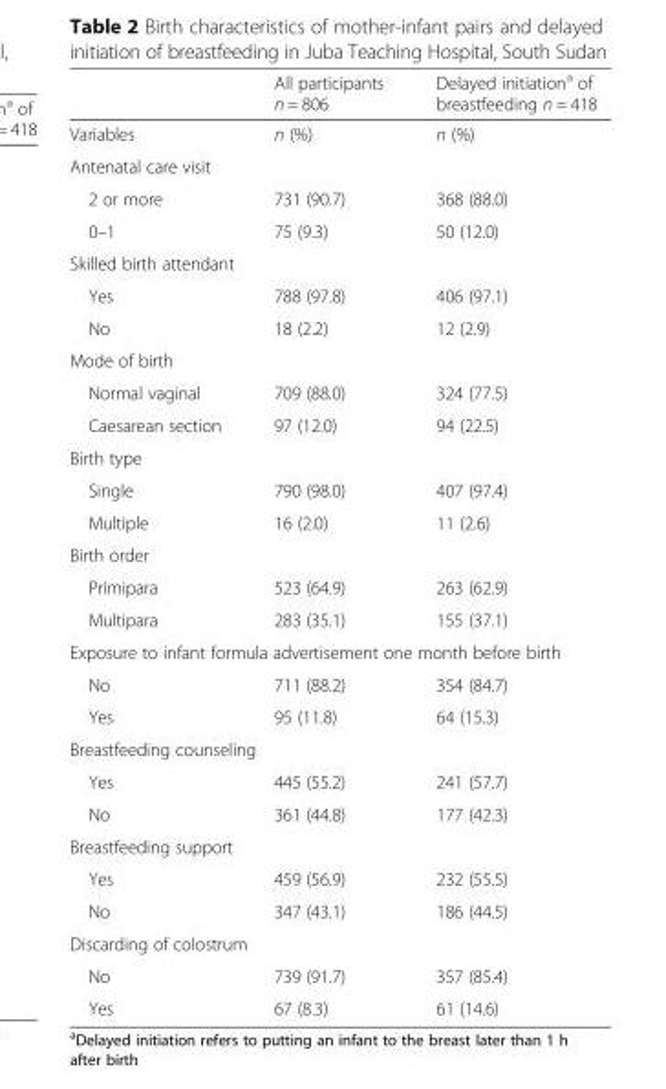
<table><thead><tr><td></td><td>All participants n = 806</td><td>Delayed initiation<sup>a</sup> of breastfeeding n = 418</td></tr></thead><tbody><tr><td>Variables</td><td>n (%)</td><td>n (%)</td></tr><tr><td colspan="3">Antenatal care visit</td></tr><tr><td>2 or more</td><td>731 (90.7)</td><td>368 (88.0)</td></tr><tr><td>0–1</td><td>75 (9.3)</td><td>50 (12.0)</td></tr><tr><td colspan="3">Skilled birth attendant</td></tr><tr><td>Yes</td><td>788 (97.8)</td><td>406 (97.1)</td></tr><tr><td>No</td><td>18 (2.2)</td><td>12 (2.9)</td></tr><tr><td colspan="3">Mode of birth</td></tr><tr><td>Normal vaginal</td><td>709 (88.0)</td><td>324 (77.5)</td></tr><tr><td>Caesarean section</td><td>97 (12.0)</td><td>94 (22.5)</td></tr><tr><td colspan="3">Birth type</td></tr><tr><td>Single</td><td>790 (98.0)</td><td>407 (97.4)</td></tr><tr><td>Multiple</td><td>16 (2.0)</td><td>11 (2.6)</td></tr><tr><td colspan="3">Birth order</td></tr><tr><td>Primipara</td><td>523 (64.9)</td><td>263 (62.9)</td></tr><tr><td>Multipara</td><td>283 (35.1)</td><td>155 (37.1)</td></tr><tr><td colspan="3">Exposure to infant formula advertisement one month before birth</td></tr><tr><td>No</td><td>711 (88.2)</td><td>354 (84.7)</td></tr><tr><td>Yes</td><td>95 (11.8)</td><td>64 (15.3)</td></tr><tr><td colspan="3">Breastfeeding counseling</td></tr><tr><td>Yes</td><td>445 (55.2)</td><td>241 (57.7)</td></tr><tr><td>No</td><td>361 (44.8)</td><td>177 (42.3)</td></tr><tr><td colspan="3">Breastfeeding support</td></tr><tr><td>Yes</td><td>459 (56.9)</td><td>232 (55.5)</td></tr><tr><td>No</td><td>347 (43.1)</td><td>186 (44.5)</td></tr><tr><td colspan="3">Discarding of colostrum</td></tr><tr><td>No</td><td>739 (91.7)</td><td>357 (85.4)</td></tr><tr><td>Yes</td><td>67 (8.3)</td><td>61 (14.6)</td></tr></tbody></table>